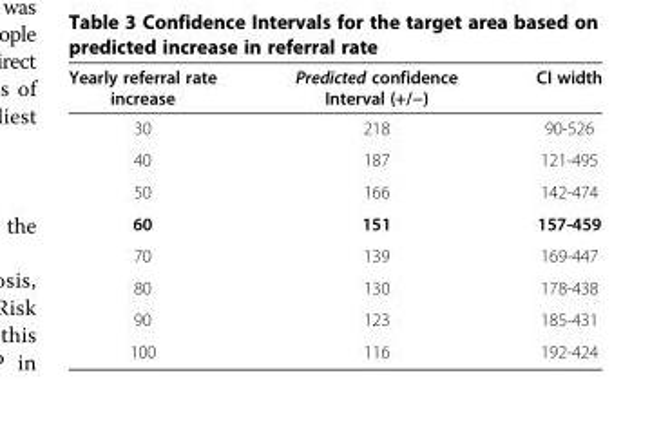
<table><thead><tr><td>Yearly referral rate increase</td><td>Predicted confidence Interval (+/−)</td><td>CI width</td></tr></thead><tbody><tr><td>30</td><td>218</td><td>90-526</td></tr><tr><td>40</td><td>187</td><td>121-495</td></tr><tr><td>50</td><td>166</td><td>142-474</td></tr><tr><td>60</td><td>151</td><td>157-459</td></tr><tr><td>70</td><td>139</td><td>169-447</td></tr><tr><td>80</td><td>130</td><td>178-438</td></tr><tr><td>90</td><td>123</td><td>185-431</td></tr><tr><td>100</td><td>116</td><td>192-424</td></tr></tbody></table>